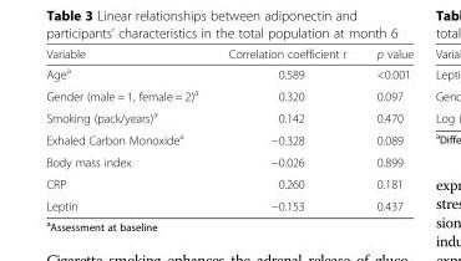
<table><thead><tr><td>Variable</td><td>Correlation coefficient r</td><td>p value</td></tr></thead><tbody><tr><td>Age<sup>a</sup></td><td>0.589</td><td>&lt;0.001</td></tr><tr><td>Gender (male = 1, female = 2)<sup>a</sup></td><td>0.320</td><td>0.097</td></tr><tr><td>Smoking (pack/years)<sup>a</sup></td><td>0.142</td><td>0.470</td></tr><tr><td>Exhaled Carbon Monoxide<sup>a</sup></td><td>−0.328</td><td>0.089</td></tr><tr><td>Body mass index</td><td>−0.026</td><td>0.899</td></tr><tr><td>CRP</td><td>0.260</td><td>0.181</td></tr><tr><td>Leptin</td><td>−0.153</td><td>0.437</td></tr></tbody></table>